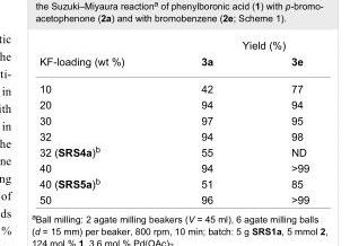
<table><thead><tr><td rowspan="2">KF-loading (wt %)</td><td colspan="2">Yield (%)</td></tr><tr><td>3a</td><td>3e</td></tr></thead><tbody><tr><td>10</td><td>42</td><td>77</td></tr><tr><td>20</td><td>94</td><td>94</td></tr><tr><td>30</td><td>97</td><td>95</td></tr><tr><td>32</td><td>94</td><td>98</td></tr><tr><td>32 (SRS4a)<sup>b</sup></td><td>55</td><td>ND</td></tr><tr><td>40</td><td>94</td><td>&gt;99</td></tr><tr><td>40 (SRS5a)<sup>b</sup></td><td>51</td><td>85</td></tr><tr><td>50</td><td>96</td><td>&gt;99</td></tr></tbody></table>